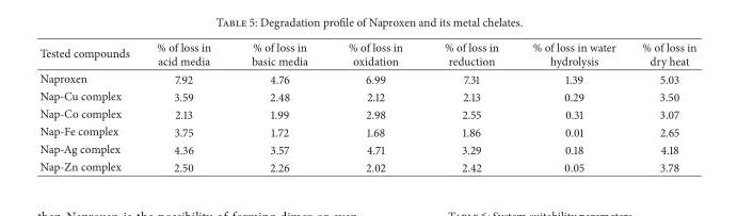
<table><thead><tr><td>Tested compounds</td><td>% of loss in acid media</td><td>% of loss in basic media</td><td>% of loss in oxidation</td><td>% of loss in reduction</td><td>% of loss in water hydrolysis</td><td>% of loss in dry heat</td></tr></thead><tbody><tr><td>Naproxen</td><td>7.92</td><td>4.76</td><td>6.99</td><td>7.31</td><td>1.39</td><td>5.03</td></tr><tr><td>Nap-Cu complex</td><td>3.59</td><td>2.48</td><td>2.12</td><td>2.13</td><td>0.29</td><td>3.50</td></tr><tr><td>Nap-Co complex</td><td>2.13</td><td>1.99</td><td>2.98</td><td>2.55</td><td>0.31</td><td>3.07</td></tr><tr><td>Nap-Fe complex</td><td>3.75</td><td>1.72</td><td>1.68</td><td>1.86</td><td>0.01</td><td>2.65</td></tr><tr><td>Nap-Ag complex</td><td>4.36</td><td>3.57</td><td>4.71</td><td>3.29</td><td>0.18</td><td>4.18</td></tr><tr><td>Nap-Zn complex</td><td>2.50</td><td>2.26</td><td>2.02</td><td>2.42</td><td>0.05</td><td>3.78</td></tr></tbody></table>